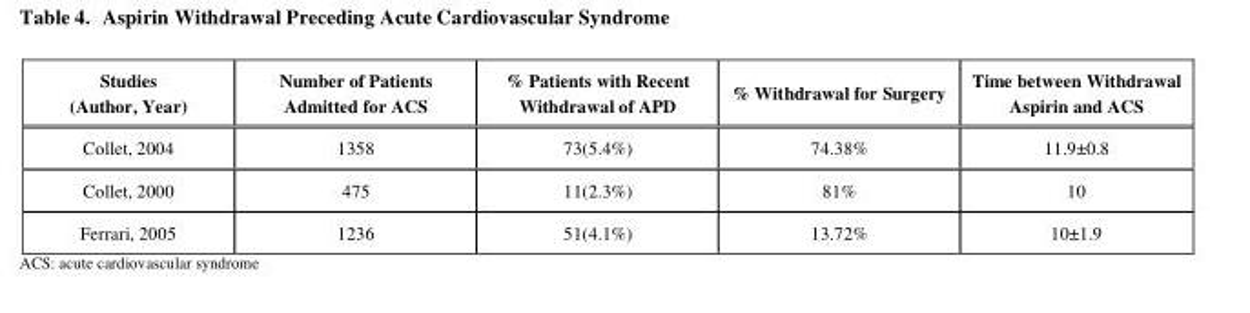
<table><thead><tr><td>Studies (Author, Year)</td><td>Number of Patients Admitted for ACS</td><td>% Patients with Recent Withdrawal of APD</td><td>% Withdrawal for Surgery</td><td>Time between Withdrawal Aspirin and ACS</td></tr></thead><tbody><tr><td>Collet, 2004</td><td>1358</td><td>73(5.4%)</td><td>74.38%</td><td>11.9±0.8</td></tr><tr><td>Collet, 2000</td><td>475</td><td>11(2.3%)</td><td>81%</td><td>10</td></tr><tr><td>Ferrari, 2005</td><td>1236</td><td>51(4.1%)</td><td>13.72%</td><td>10±1.9</td></tr></tbody></table>